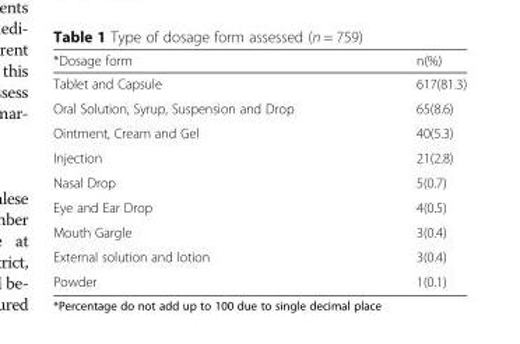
<table><thead><tr><td>*Dosage form</td><td>n(%)</td></tr></thead><tbody><tr><td>Tablet and Capsule</td><td>617(81.3)</td></tr><tr><td>Oral Solution, Syrup, Suspension and Drop</td><td>65(8.6)</td></tr><tr><td>Ointment, Cream and Gel</td><td>40(5.3)</td></tr><tr><td>Injection</td><td>21(2.8)</td></tr><tr><td>Nasal Drop</td><td>5(0.7)</td></tr><tr><td>Eye and Ear Drop</td><td>4(0.5)</td></tr><tr><td>Mouth Gargle</td><td>3(0.4)</td></tr><tr><td>External solution and lotion</td><td>3(0.4)</td></tr><tr><td>Powder</td><td>1(0.1)</td></tr></tbody></table>